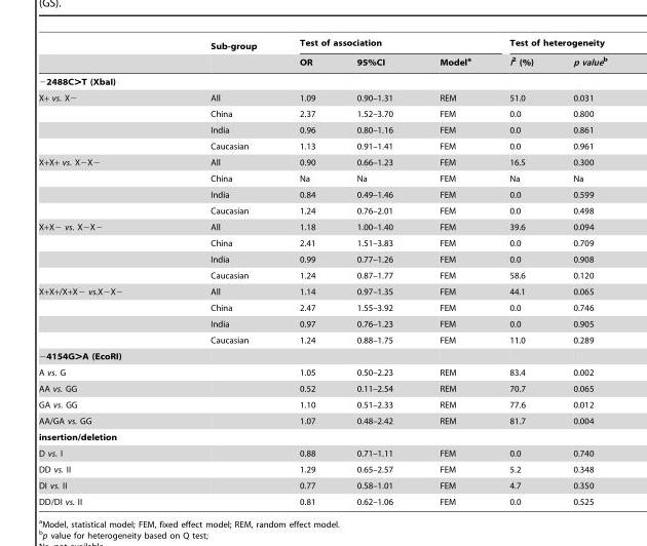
<table><thead><tr><td rowspan="2"></td><td rowspan="2">Sub-group</td><td colspan="3">Test of association</td><td colspan="2">Test of heterogeneity</td></tr><tr><td>OR</td><td>95%CI</td><td>Model<sup>a</sup></td><td>I<sup>2</sup> (%)</td><td>p valueb</td></tr></thead><tbody><tr><td colspan="7">−2488C&gt;T (XbaI)</td></tr><tr><td rowspan="4">X+ vs. X−</td><td>All</td><td>1.09</td><td>0.90–1.31</td><td>REM</td><td>51.0</td><td>0.031</td></tr><tr><td>China</td><td>2.37</td><td>1.52–3.70</td><td>FEM</td><td>0.0</td><td>0.800</td></tr><tr><td>India</td><td>0.96</td><td>0.80–1.16</td><td>FEM</td><td>0.0</td><td>0.861</td></tr><tr><td>Caucasian</td><td>1.13</td><td>0.91–1.41</td><td>FEM</td><td>0.0</td><td>0.961</td></tr><tr><td rowspan="4">X+X+ vs. X−X−</td><td>All</td><td>0.90</td><td>0.66–1.23</td><td>FEM</td><td>16.5</td><td>0.300</td></tr><tr><td>China</td><td>Na</td><td>Na</td><td>FEM</td><td>Na</td><td>Na</td></tr><tr><td>India</td><td>0.84</td><td>0.49–1.46</td><td>FEM</td><td>0.0</td><td>0.599</td></tr><tr><td>Caucasian</td><td>1.24</td><td>0.76–2.01</td><td>FEM</td><td>0.0</td><td>0.498</td></tr><tr><td rowspan="4">X+X− vs. X−X−</td><td>All</td><td>1.18</td><td>1.00–1.40</td><td>FEM</td><td>39.6</td><td>0.094</td></tr><tr><td>China</td><td>2.41</td><td>1.51–3.83</td><td>FEM</td><td>0.0</td><td>0.709</td></tr><tr><td>India</td><td>0.99</td><td>0.77–1.26</td><td>FEM</td><td>0.0</td><td>0.908</td></tr><tr><td>Caucasian</td><td>1.24</td><td>0.87–1.77</td><td>FEM</td><td>58.6</td><td>0.120</td></tr><tr><td rowspan="4">X+X+/X+X− vs.X−X−</td><td>All</td><td>1.14</td><td>0.97–1.35</td><td>FEM</td><td>44.1</td><td>0.065</td></tr><tr><td>China</td><td>2.47</td><td>1.55–3.92</td><td>FEM</td><td>0.0</td><td>0.746</td></tr><tr><td>India</td><td>0.97</td><td>0.76–1.23</td><td>FEM</td><td>0.0</td><td>0.905</td></tr><tr><td>Caucasian</td><td>1.24</td><td>0.88–1.75</td><td>FEM</td><td>11.0</td><td>0.289</td></tr><tr><td colspan="7">−4154G&gt;A (EcoRI)</td></tr><tr><td>A vs. G</td><td></td><td>1.05</td><td>0.50–2.23</td><td>REM</td><td>83.4</td><td>0.002</td></tr><tr><td>AA vs. GG</td><td></td><td>0.52</td><td>0.11–2.54</td><td>REM</td><td>70.7</td><td>0.065</td></tr><tr><td>GA vs. GG</td><td></td><td>1.10</td><td>0.51–2.33</td><td>REM</td><td>77.6</td><td>0.012</td></tr><tr><td>AA/GA vs. GG</td><td></td><td>1.07</td><td>0.48–2.42</td><td>REM</td><td>81.7</td><td>0.004</td></tr><tr><td colspan="7">insertion/deletion</td></tr><tr><td>D vs. I</td><td></td><td>0.88</td><td>0.71–1.11</td><td>FEM</td><td>0.0</td><td>0.740</td></tr><tr><td>DD vs. II</td><td></td><td>1.29</td><td>0.65–2.57</td><td>FEM</td><td>5.2</td><td>0.348</td></tr><tr><td>DI vs. II</td><td></td><td>0.77</td><td>0.58–1.01</td><td>FEM</td><td>4.7</td><td>0.350</td></tr><tr><td>DD/DI vs. II</td><td></td><td>0.81</td><td>0.62–1.06</td><td>FEM</td><td>0.0</td><td>0.525</td></tr></tbody></table>